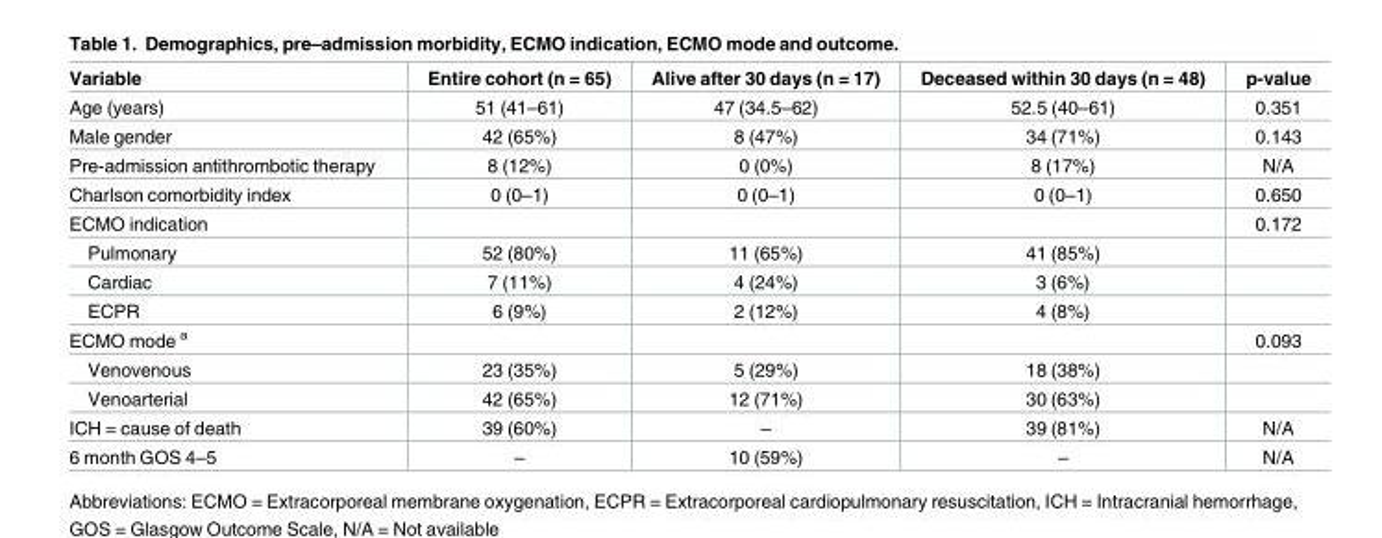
<table><thead><tr><td>Variable</td><td>Entire cohort (n = 65)</td><td>Alive after 30 days (n = 17)</td><td>Deceased within 30 days (n = 48)</td><td>p-value</td></tr></thead><tbody><tr><td>Age (years)</td><td>51 (41–61)</td><td>47 (34.5–62)</td><td>52.5 (40–61)</td><td>0.351</td></tr><tr><td>Male gender</td><td>42 (65%)</td><td>8 (47%)</td><td>34 (71%)</td><td>0.143</td></tr><tr><td>Pre-admission antithrombotic therapy</td><td>8 (12%)</td><td>0 (0%)</td><td>8 (17%)</td><td>N/A</td></tr><tr><td>Charlson comorbidity index</td><td>0 (0–1)</td><td>0 (0–1)</td><td>0 (0–1)</td><td>0.650</td></tr><tr><td>ECMO indication</td><td></td><td></td><td></td><td>0.172</td></tr><tr><td>Pulmonary</td><td>52 (80%)</td><td>11 (65%)</td><td>41 (85%)</td><td></td></tr><tr><td>Cardiac</td><td>7 (11%)</td><td>4 (24%)</td><td>3 (6%)</td><td></td></tr><tr><td>ECPR</td><td>6 (9%)</td><td>2 (12%)</td><td>4 (8%)</td><td></td></tr><tr><td>ECMO mode <sup>a</sup></td><td></td><td></td><td></td><td>0.093</td></tr><tr><td>Venovenous</td><td>23 (35%)</td><td>5 (29%)</td><td>18 (38%)</td><td></td></tr><tr><td>Venoarterial</td><td>42 (65%)</td><td>12 (71%)</td><td>30 (63%)</td><td></td></tr><tr><td>ICH = cause of death</td><td>39 (60%)</td><td>–</td><td>39 (81%)</td><td>N/A</td></tr><tr><td>6 month GOS 4–5</td><td>–</td><td>10 (59%)</td><td>–</td><td>N/A</td></tr></tbody></table>